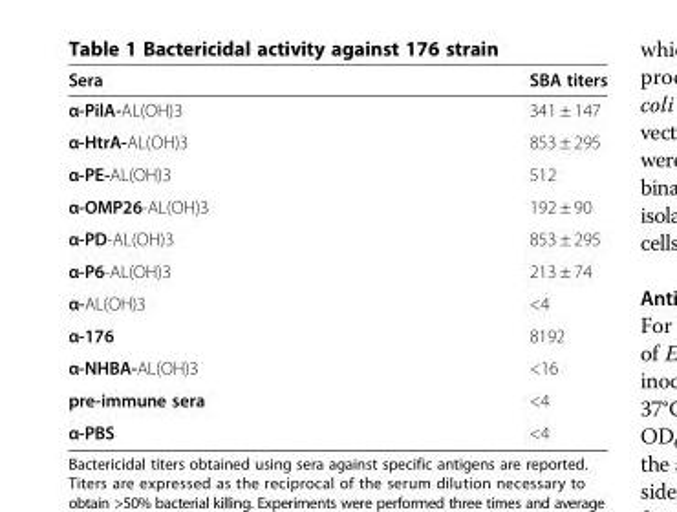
<table><thead><tr><td>Sera</td><td>SBA titers</td></tr></thead><tbody><tr><td>α-PilA-AL(OH)3</td><td>341 ± 147</td></tr><tr><td>α-HtrA-AL(OH)3</td><td>853 ± 295</td></tr><tr><td>α-PE-AL(OH)3</td><td>512</td></tr><tr><td>α-OMP26-AL(OH)3</td><td>192 ± 90</td></tr><tr><td>α-PD-AL(OH)3</td><td>853 ± 295</td></tr><tr><td>α-P6-AL(OH)3</td><td>213 ± 74</td></tr><tr><td>α-AL(OH)3</td><td>&lt;4</td></tr><tr><td>α-176</td><td>8192</td></tr><tr><td>α-NHBA-AL(OH)3</td><td>&lt;16</td></tr><tr><td>pre-immune sera</td><td>&lt;4</td></tr><tr><td>α-PBS</td><td>&lt;4</td></tr></tbody></table>